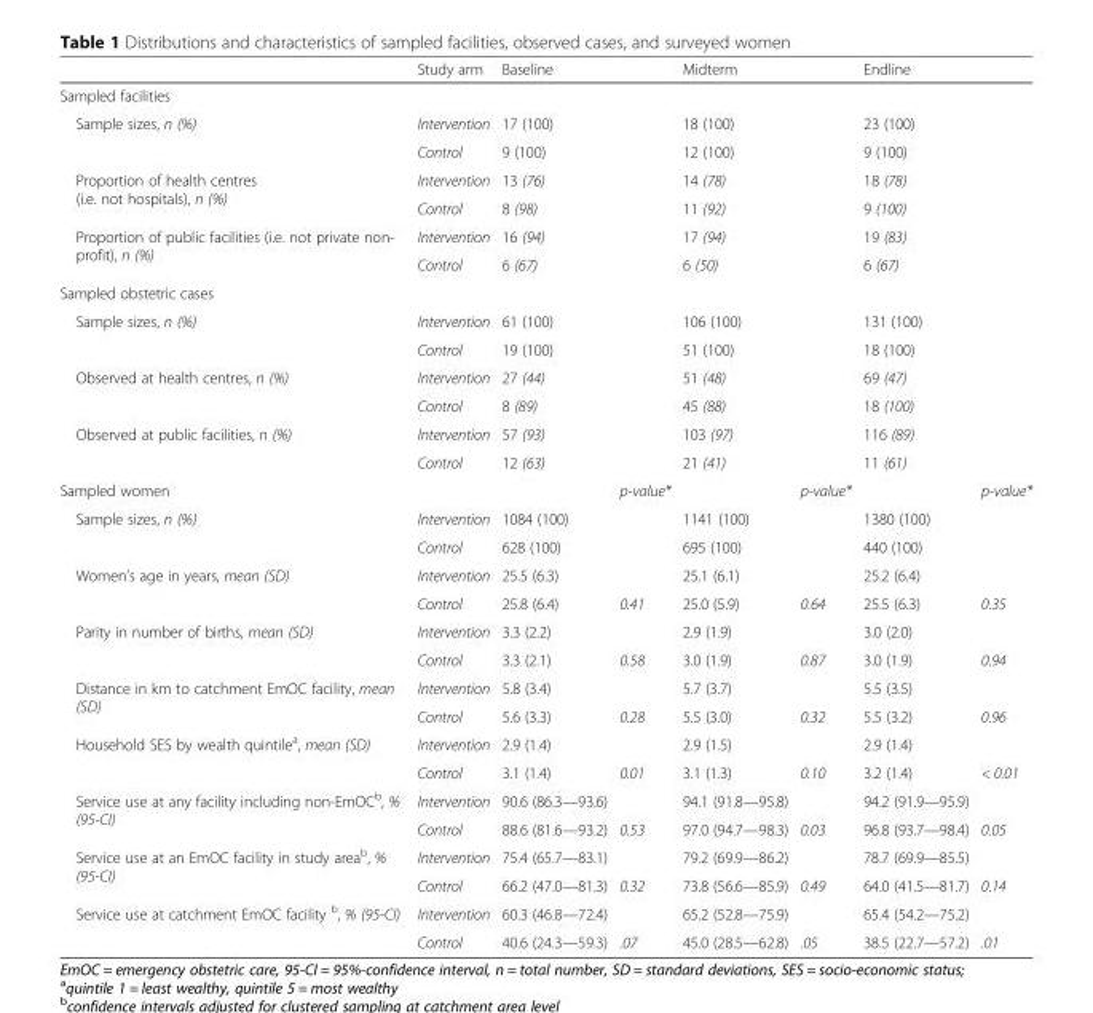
<table><thead><tr><td></td><td>Study arm</td><td>Baseline</td><td></td><td>Midterm</td><td></td><td>Endline</td><td></td></tr></thead><tbody><tr><td colspan="8">Sampled facilities</td></tr><tr><td rowspan="2">Sample sizes, n (%)</td><td>Intervention</td><td>17 (100)</td><td></td><td>18 (100)</td><td></td><td>23 (100)</td><td></td></tr><tr><td>Control</td><td>9 (100)</td><td></td><td>12 (100)</td><td></td><td>9 (100)</td><td></td></tr><tr><td rowspan="2">Proportion of health centres (i.e. not hospitals), n (%)</td><td>Intervention</td><td>13 (76)</td><td></td><td>14 (78)</td><td></td><td>18 (78)</td><td></td></tr><tr><td>Control</td><td>8 (98)</td><td></td><td>11 (92)</td><td></td><td>9 (100)</td><td></td></tr><tr><td rowspan="2">Proportion of public facilities (i.e. not private non- profit), n (%)</td><td>Intervention</td><td>16 (94)</td><td></td><td>17 (94)</td><td></td><td>19 (83)</td><td></td></tr><tr><td>Control</td><td>6 (67)</td><td></td><td>6 (50)</td><td></td><td>6 (67)</td><td></td></tr><tr><td colspan="8">Sampled obstetric cases</td></tr><tr><td rowspan="2">Sample sizes, n (%)</td><td>Intervention</td><td>61 (100)</td><td></td><td>106 (100)</td><td></td><td>131 (100)</td><td></td></tr><tr><td>Control</td><td>19 (100)</td><td></td><td>51 (100)</td><td></td><td>18 (100)</td><td></td></tr><tr><td rowspan="2">Observed at health centres, n (%)</td><td>Intervention</td><td>27 (44)</td><td></td><td>51 (48)</td><td></td><td>69 (47)</td><td></td></tr><tr><td>Control</td><td>8 (89)</td><td></td><td>45 (88)</td><td></td><td>18 (100)</td><td></td></tr><tr><td rowspan="2">Observed at public facilities, n (%)</td><td>Intervention</td><td>57 (93)</td><td></td><td>103 (97)</td><td></td><td>116 (89)</td><td></td></tr><tr><td>Control</td><td>12 (63)</td><td></td><td>21 (41)</td><td></td><td>11 (61)</td><td></td></tr><tr><td>Sampled women</td><td></td><td></td><td>p-value*</td><td></td><td>p-value*</td><td></td><td>p-value*</td></tr><tr><td rowspan="2">Sample sizes, n (%)</td><td>Intervention</td><td>1084 (100)</td><td></td><td>1141 (100)</td><td></td><td>1380 (100)</td><td></td></tr><tr><td>Control</td><td>628 (100)</td><td></td><td>695 (100)</td><td></td><td>440 (100)</td><td></td></tr><tr><td rowspan="2">Women’s age in years, mean (SD)</td><td>Intervention</td><td>25.5 (6.3)</td><td></td><td>25.1 (6.1)</td><td></td><td>25.2 (6.4)</td><td></td></tr><tr><td>Control</td><td>25.8 (6.4)</td><td>0.41</td><td>25.0 (5.9)</td><td>0.64</td><td>25.5 (6.3)</td><td>0.35</td></tr><tr><td rowspan="2">Parity in number of births, mean (SD)</td><td>Intervention</td><td>3.3 (2.2)</td><td></td><td>2.9 (1.9)</td><td></td><td>3.0 (2.0)</td><td></td></tr><tr><td>Control</td><td>3.3 (2.1)</td><td>0.58</td><td>3.0 (1.9)</td><td>0.87</td><td>3.0 (1.9)</td><td>0.94</td></tr><tr><td rowspan="2">Distance in km to catchment EmOC facility, mean (SD)</td><td>Intervention</td><td>5.8 (3.4)</td><td></td><td>5.7 (3.7)</td><td></td><td>5.5 (3.5)</td><td></td></tr><tr><td>Control</td><td>5.6 (3.3)</td><td>0.28</td><td>5.5 (3.0)</td><td>0.32</td><td>5.5 (3.2)</td><td>0.96</td></tr><tr><td rowspan="2">Household SES by wealth quintile<sup>a</sup>, mean (SD)</td><td>Intervention</td><td>2.9 (1.4)</td><td></td><td>2.9 (1.5)</td><td></td><td>2.9 (1.4)</td><td></td></tr><tr><td>Control</td><td>3.1 (1.4)</td><td>0.01</td><td>3.1 (1.3)</td><td>0.10</td><td>3.2 (1.4)</td><td>&lt; 0.01</td></tr><tr><td rowspan="2">Service use at any facility including non-EmOC<sup>b</sup>, % (95-CI)</td><td>Intervention</td><td>90.6 (86.3—93.6)</td><td></td><td>94.1 (91.8—95.8)</td><td></td><td>94.2 (91.9—95.9)</td><td></td></tr><tr><td>Control</td><td>88.6 (81.6—93.2)</td><td>0.53</td><td>97.0 (94.7—98.3)</td><td>0.03</td><td>96.8 (93.7—98.4)</td><td>0.05</td></tr><tr><td rowspan="2">Service use at an EmOC facility in study area<sup>b</sup>, % (95-CI)</td><td>Intervention</td><td>75.4 (65.7—83.1)</td><td></td><td>79.2 (69.9—86.2)</td><td></td><td>78.7 (69.9—85.5)</td><td></td></tr><tr><td>Control</td><td>66.2 (47.0—81.3)</td><td>0.32</td><td>73.8 (56.6—85.9)</td><td>0.49</td><td>64.0 (41.5—81.7)</td><td>0.14</td></tr><tr><td rowspan="2">Service use at catchment EmOC facility <sup>b</sup>, % (95-CI)</td><td>Intervention</td><td>60.3 (46.8—72.4)</td><td></td><td>65.2 (52.8—75.9)</td><td></td><td>65.4 (54.2—75.2)</td><td></td></tr><tr><td>Control</td><td>40.6 (24.3—59.3)</td><td>.07</td><td>45.0 (28.5—62.8)</td><td>.05</td><td>38.5 (22.7—57.2)</td><td>.01</td></tr></tbody></table>